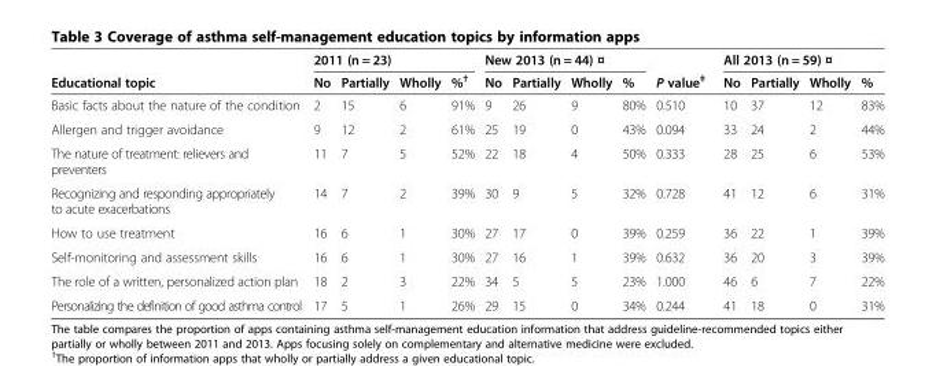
<table><thead><tr><td rowspan="2">Educational topic</td><td colspan="4">2011 (n = 23)</td><td colspan="4">New 2013 (n = 44) ¤</td><td rowspan="2">P value<sup>‡</sup></td><td colspan="4">All 2013 (n = 59) ¤</td></tr><tr><td>No</td><td>Partially</td><td>Wholly</td><td>%<sup>†</sup></td><td>No</td><td>Partially</td><td>Wholly</td><td>%</td><td>No</td><td>Partially</td><td>Wholly</td><td>%</td></tr></thead><tbody><tr><td>Basic facts about the nature of the condition</td><td>2</td><td>15</td><td>6</td><td>91%</td><td>9</td><td>26</td><td>9</td><td>80%</td><td>0.510</td><td>10</td><td>37</td><td>12</td><td>83%</td></tr><tr><td>Allergen and trigger avoidance</td><td>9</td><td>12</td><td>2</td><td>61%</td><td>25</td><td>19</td><td>0</td><td>43%</td><td>0.094</td><td>33</td><td>24</td><td>2</td><td>44%</td></tr><tr><td>The nature of treatment: relievers and preventers</td><td>11</td><td>7</td><td>5</td><td>52%</td><td>22</td><td>18</td><td>4</td><td>50%</td><td>0.333</td><td>28</td><td>25</td><td>6</td><td>53%</td></tr><tr><td>Recognizing and responding appropriately to acute exacerbations</td><td>14</td><td>7</td><td>2</td><td>39%</td><td>30</td><td>9</td><td>5</td><td>32%</td><td>0.728</td><td>41</td><td>12</td><td>6</td><td>31%</td></tr><tr><td>How to use treatment</td><td>16</td><td>6</td><td>1</td><td>30%</td><td>27</td><td>17</td><td>0</td><td>39%</td><td>0.259</td><td>36</td><td>22</td><td>1</td><td>39%</td></tr><tr><td>Self-monitoring and assessment skills</td><td>16</td><td>6</td><td>1</td><td>30%</td><td>27</td><td>16</td><td>1</td><td>39%</td><td>0.632</td><td>36</td><td>20</td><td>3</td><td>39%</td></tr><tr><td>The role of a written, personalized action plan</td><td>18</td><td>2</td><td>3</td><td>22%</td><td>34</td><td>5</td><td>5</td><td>23%</td><td>1.000</td><td>46</td><td>6</td><td>7</td><td>22%</td></tr><tr><td>Personalizing the definition of good asthma control</td><td>17</td><td>5</td><td>1</td><td>26%</td><td>29</td><td>15</td><td>0</td><td>34%</td><td>0.244</td><td>41</td><td>18</td><td>0</td><td>31%</td></tr></tbody></table>